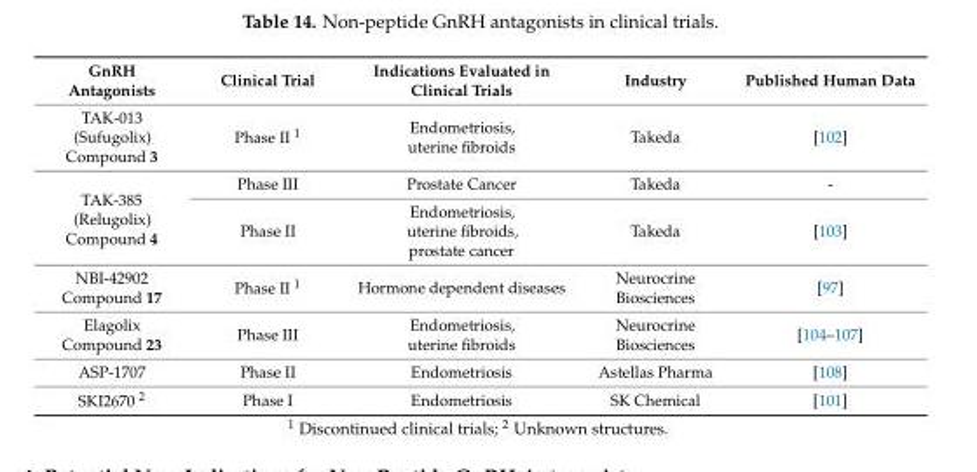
<table><thead><tr><td>GnRH Antagonists</td><td>Clinical Trial</td><td>Indications Evaluated in Clinical Trials</td><td>Industry</td><td>Published Human Data</td></tr></thead><tbody><tr><td>TAK-013 (Sufugolix) Compound 3</td><td>Phase II 1</td><td>Endometriosis, uterine fibroids</td><td>Takeda</td><td>[102]</td></tr><tr><td rowspan="2">TAK-385 (Relugolix) Compound 4</td><td>Phase III</td><td>Prostate Cancer</td><td>Takeda</td><td>-</td></tr><tr><td>Phase II</td><td>Endometriosis, uterine fibroids, prostate cancer</td><td>Takeda</td><td>[103]</td></tr><tr><td>NBI-42902 Compound 17</td><td>Phase II 1</td><td>Hormone dependent diseases</td><td>Neurocrine Biosciences</td><td>[97]</td></tr><tr><td>Elagolix Compound 23</td><td>Phase III</td><td>Endometriosis, uterine fibroids</td><td>Neurocrine Biosciences</td><td>[104–107]</td></tr><tr><td>ASP-1707</td><td>Phase II</td><td>Endometriosis</td><td>Astellas Pharma</td><td>[108]</td></tr><tr><td>SKI2670 2</td><td>Phase I</td><td>Endometriosis</td><td>SK Chemical</td><td>[101]</td></tr></tbody></table>